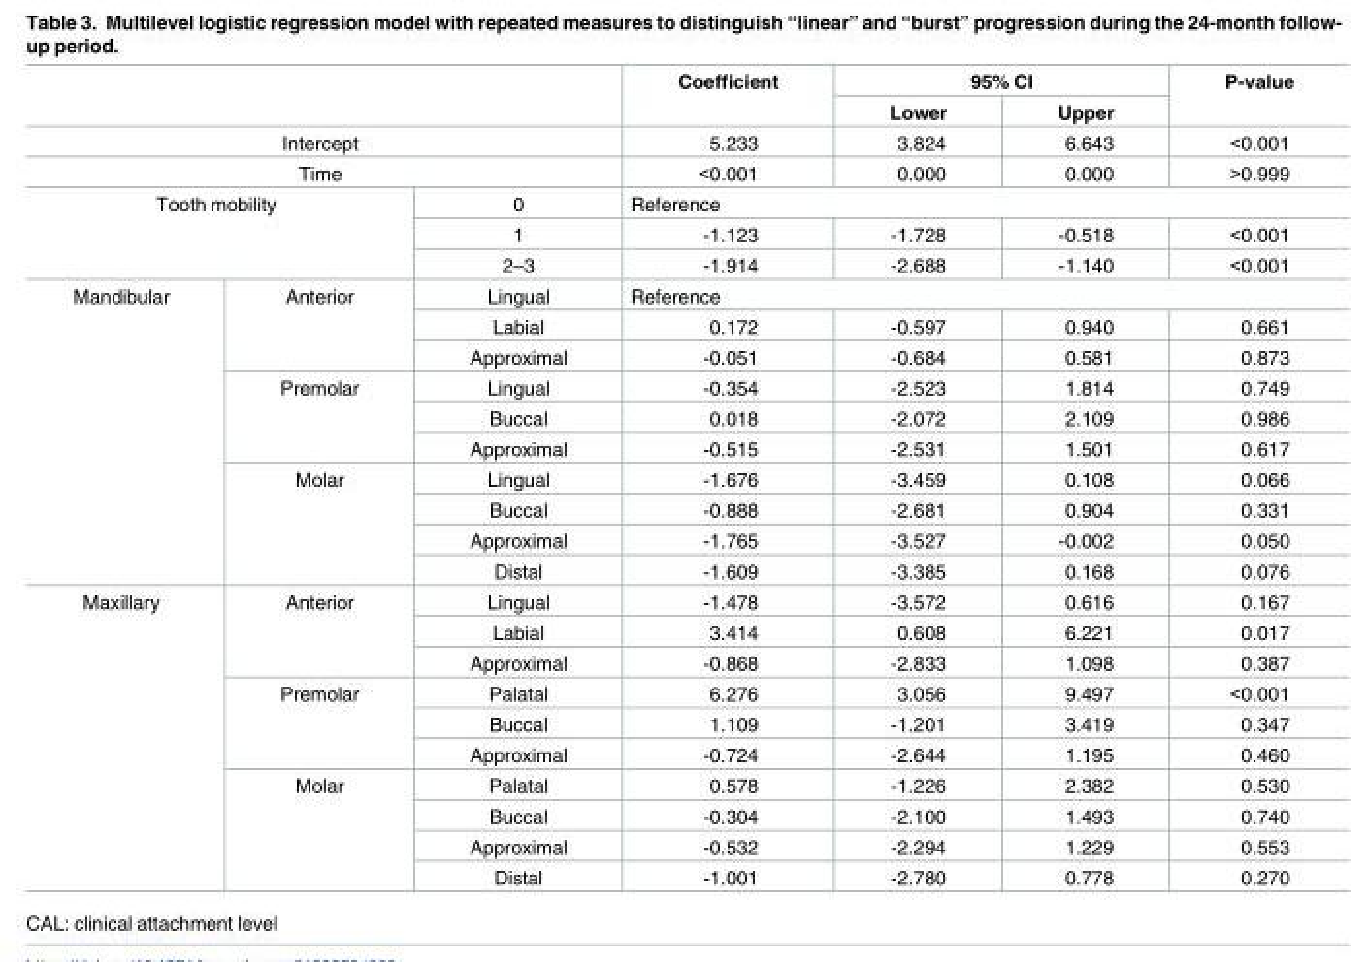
<table><thead><tr><td rowspan="2"></td><td rowspan="2"></td><td rowspan="2"></td><td rowspan="2">Coefficient</td><td colspan="2">95% CI</td><td rowspan="2">P-value</td></tr><tr><td>Lower</td><td>Upper</td></tr></thead><tbody><tr><td colspan="3">Intercept</td><td>5.233</td><td>3.824</td><td>6.643</td><td>&lt;0.001</td></tr><tr><td colspan="3">Time</td><td>&lt;0.001</td><td>0.000</td><td>0.000</td><td>&gt;0.999</td></tr><tr><td rowspan="3" colspan="2">Tooth mobility</td><td>0</td><td colspan="4">Reference</td></tr><tr><td>1</td><td>-1.123</td><td>-1.728</td><td>-0.518</td><td>&lt;0.001</td></tr><tr><td>2–3</td><td>-1.914</td><td>-2.688</td><td>-1.140</td><td>&lt;0.001</td></tr><tr><td rowspan="10">Mandibular</td><td rowspan="3">Anterior</td><td>Lingual</td><td colspan="4">Reference</td></tr><tr><td>Labial</td><td>0.172</td><td>-0.597</td><td>0.940</td><td>0.661</td></tr><tr><td>Approximal</td><td>-0.051</td><td>-0.684</td><td>0.581</td><td>0.873</td></tr><tr><td rowspan="3">Premolar</td><td>Lingual</td><td>-0.354</td><td>-2.523</td><td>1.814</td><td>0.749</td></tr><tr><td>Buccal</td><td>0.018</td><td>-2.072</td><td>2.109</td><td>0.986</td></tr><tr><td>Approximal</td><td>-0.515</td><td>-2.531</td><td>1.501</td><td>0.617</td></tr><tr><td rowspan="4">Molar</td><td>Lingual</td><td>-1.676</td><td>-3.459</td><td>0.108</td><td>0.066</td></tr><tr><td>Buccal</td><td>-0.888</td><td>-2.681</td><td>0.904</td><td>0.331</td></tr><tr><td>Approximal</td><td>-1.765</td><td>-3.527</td><td>-0.002</td><td>0.050</td></tr><tr><td>Distal</td><td>-1.609</td><td>-3.385</td><td>0.168</td><td>0.076</td></tr><tr><td rowspan="10">Maxillary</td><td rowspan="3">Anterior</td><td>Lingual</td><td>-1.478</td><td>-3.572</td><td>0.616</td><td>0.167</td></tr><tr><td>Labial</td><td>3.414</td><td>0.608</td><td>6.221</td><td>0.017</td></tr><tr><td>Approximal</td><td>-0.868</td><td>-2.833</td><td>1.098</td><td>0.387</td></tr><tr><td rowspan="3">Premolar</td><td>Palatal</td><td>6.276</td><td>3.056</td><td>9.497</td><td>&lt;0.001</td></tr><tr><td>Buccal</td><td>1.109</td><td>-1.201</td><td>3.419</td><td>0.347</td></tr><tr><td>Approximal</td><td>-0.724</td><td>-2.644</td><td>1.195</td><td>0.460</td></tr><tr><td rowspan="4">Molar</td><td>Palatal</td><td>0.578</td><td>-1.226</td><td>2.382</td><td>0.530</td></tr><tr><td>Buccal</td><td>-0.304</td><td>-2.100</td><td>1.493</td><td>0.740</td></tr><tr><td>Approximal</td><td>-0.532</td><td>-2.294</td><td>1.229</td><td>0.553</td></tr><tr><td>Distal</td><td>-1.001</td><td>-2.780</td><td>0.778</td><td>0.270</td></tr></tbody></table>